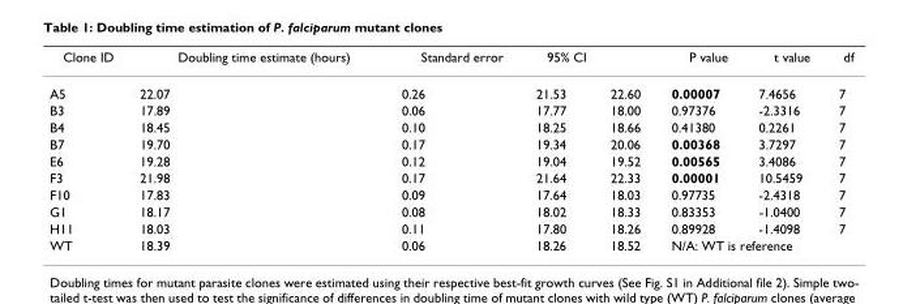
<table><thead><tr><td>Clone ID</td><td>Doubling time estimate (hours)</td><td>Standard error</td><td>95% CI</td><td></td><td>P value</td><td>t value</td><td>df</td></tr></thead><tbody><tr><td>A5</td><td>22.07</td><td>0.26</td><td>21.53</td><td>22.60</td><td>0.00007</td><td>7.4656</td><td>7</td></tr><tr><td>B3</td><td>17.89</td><td>0.06</td><td>17.77</td><td>18.00</td><td>0.97376</td><td>-2.3316</td><td>7</td></tr><tr><td>B4</td><td>18.45</td><td>0.10</td><td>18.25</td><td>18.66</td><td>0.41380</td><td>0.2261</td><td>7</td></tr><tr><td>B7</td><td>19.70</td><td>0.17</td><td>19.34</td><td>20.06</td><td>0.00368</td><td>3.7297</td><td>7</td></tr><tr><td>E6</td><td>19.28</td><td>0.12</td><td>19.04</td><td>19.52</td><td>0.00565</td><td>3.4086</td><td>7</td></tr><tr><td>F3</td><td>21.98</td><td>0.17</td><td>21.64</td><td>22.33</td><td>0.00001</td><td>10.5459</td><td>7</td></tr><tr><td>F10</td><td>17.83</td><td>0.09</td><td>17.64</td><td>18.03</td><td>0.97735</td><td>-2.4318</td><td>7</td></tr><tr><td>G1</td><td>18.17</td><td>0.08</td><td>18.02</td><td>18.33</td><td>0.83353</td><td>-1.0400</td><td>7</td></tr><tr><td>H11</td><td>18.03</td><td>0.11</td><td>17.80</td><td>18.26</td><td>0.89928</td><td>-1.4098</td><td>7</td></tr><tr><td>WT</td><td>18.39</td><td>0.06</td><td>18.26</td><td>18.52</td><td colspan="3">N/A: WT is reference</td></tr></tbody></table>